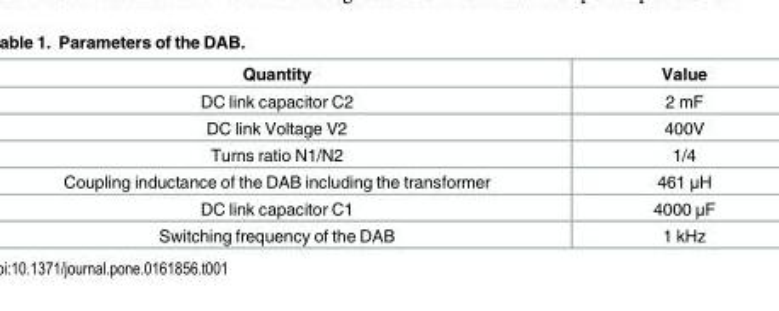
<table><thead><tr><td>Quantity</td><td>Value</td></tr></thead><tbody><tr><td>DC link capacitor C2</td><td>2 mF</td></tr><tr><td>DC link Voltage V2</td><td>400V</td></tr><tr><td>Turns ratio N1/N2</td><td>1/4</td></tr><tr><td>Coupling inductance of the DAB including the transformer</td><td>461 μH</td></tr><tr><td>DC link capacitor C1</td><td>4000 μF</td></tr><tr><td>Switching frequency of the DAB</td><td>1 kHz</td></tr></tbody></table>